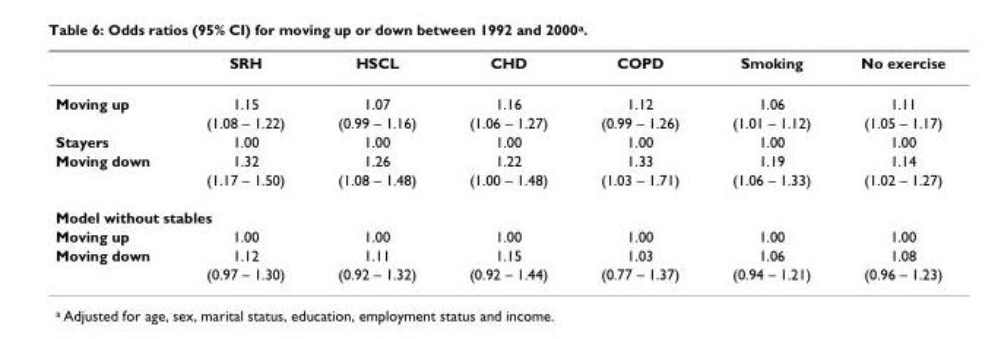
<table><thead><tr><td></td><td>SRH</td><td>HSCL</td><td>CHD</td><td>COPD</td><td>Smoking</td><td>No exercise</td></tr></thead><tbody><tr><td rowspan="2">Moving up</td><td>1.15</td><td>1.07</td><td>1.16</td><td>1.12</td><td>1.06</td><td>1.11</td></tr><tr><td>(1.08 – 1.22)</td><td>(0.99 – 1.16)</td><td>(1.06 – 1.27)</td><td>(0.99 – 1.26)</td><td>(1.01 – 1.12)</td><td>(1.05 – 1.17)</td></tr><tr><td>Stayers</td><td>1.00</td><td>1.00</td><td>1.00</td><td>1.00</td><td>1.00</td><td>1.00</td></tr><tr><td rowspan="2">Moving down</td><td>1.32</td><td>1.26</td><td>1.22</td><td>1.33</td><td>1.19</td><td>1.14</td></tr><tr><td>(1.17 – 1.50)</td><td>(1.08 – 1.48)</td><td>(1.00 – 1.48)</td><td>(1.03 – 1.71)</td><td>(1.06 – 1.33)</td><td>(1.02 – 1.27)</td></tr><tr><td colspan="7">Model without stables</td></tr><tr><td>Moving up</td><td>1.00</td><td>1.00</td><td>1.00</td><td>1.00</td><td>1.00</td><td>1.00</td></tr><tr><td rowspan="2">Moving down</td><td>1.12</td><td>1.11</td><td>1.15</td><td>1.03</td><td>1.06</td><td>1.08</td></tr><tr><td>(0.97 – 1.30)</td><td>(0.92 – 1.32)</td><td>(0.92 – 1.44)</td><td>(0.77 – 1.37)</td><td>(0.94 – 1.21)</td><td>(0.96 – 1.23)</td></tr></tbody></table>